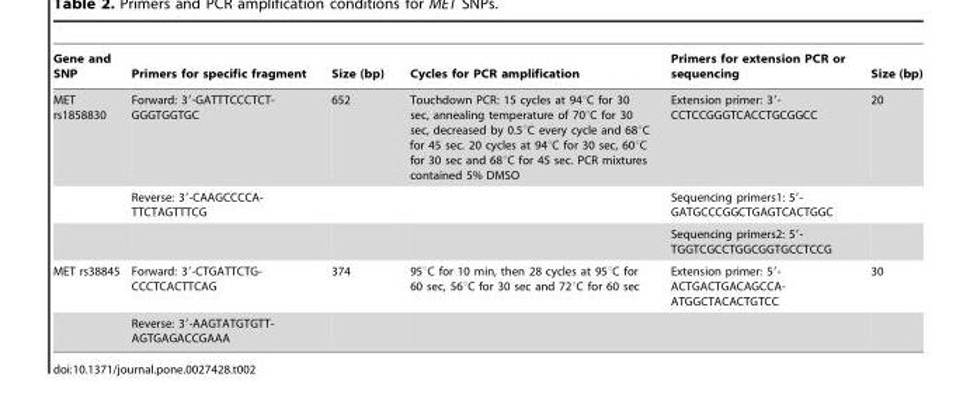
<table><thead><tr><td>Gene and SNP</td><td>Primers for specific fragment</td><td>Size (bp)</td><td>Cycles for PCR amplification</td><td>Primers for extension PCR or sequencing</td><td>Size (bp)</td></tr></thead><tbody><tr><td rowspan="3">MET rs1858830</td><td>Forward: 39-GATTTCCCTCT- GGGTGGTGC</td><td>652</td><td>Touchdown PCR: 15 cycles at 94°C for 30 sec, annealing temperature of 70°C for 30 sec, decreased by 0.5°C every cycle and 68°C for 45 sec. 20 cycles at 94°C for 30 sec, 60°C for 30 sec and 68°C for 45 sec. PCR mixtures contained 5% DMSO</td><td>Extension primer: 3′- CCTCCGGGTCACCTGCGGCC</td><td>20</td></tr><tr><td>Reverse: 39-CAAGCCCCA- TTCTAGTTTCG</td><td></td><td></td><td>Sequencing primers1: 5′- GATGCCCGGCTGAGTCACTGGC</td><td></td></tr><tr><td></td><td></td><td></td><td>Sequencing primers2: 5′- TGGTCGCCTGGCGGTGCCTCCG</td><td></td></tr><tr><td rowspan="2">MET rs38845</td><td>Forward: 39-CTGATTCTG- CCCTCACTTCAG</td><td>374</td><td>95°C for 10 min, then 28 cycles at 95°C for 60 sec, 56°C for 30 sec and 72°C for 60 sec</td><td>Extension primer: 59- ACTGACTGACAGCCA- ATGGCTACACTGTCC</td><td>30</td></tr><tr><td>Reverse: 39-AAGTATGTGTT- AGTGAGACCGAAA</td><td></td><td></td><td></td><td></td></tr></tbody></table>